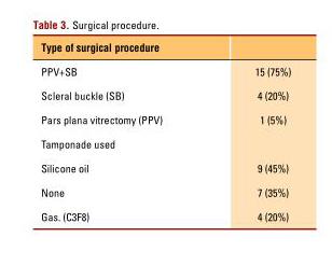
<table><thead><tr><td>Type of surgical procedure</td><td></td></tr></thead><tbody><tr><td>PPV+SB</td><td>15 (75%)</td></tr><tr><td>Scleral buckle (SB)</td><td>4 (20%)</td></tr><tr><td>Pars plana vitrectomy (PPV)</td><td>1 (5%)</td></tr><tr><td colspan="2">Tamponade used</td></tr><tr><td>Silicone oil</td><td>9 (45%)</td></tr><tr><td>None</td><td>7 (35%)</td></tr><tr><td>Gas. (C3F8)</td><td>4 (20%)</td></tr></tbody></table>